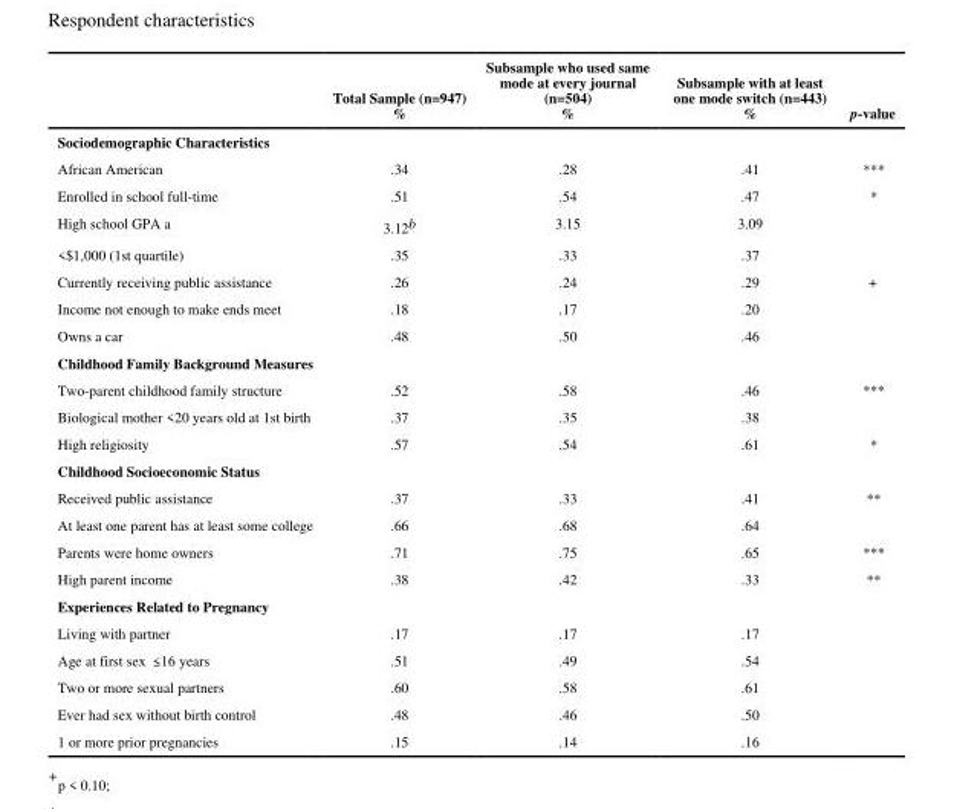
<table><thead><tr><td></td><td>Total Sample (n=947) %</td><td>Subsample who used same mode at every journal (n=504) %</td><td>Subsample with at least one mode switch (n=443) %</td><td>p-value</td></tr></thead><tbody><tr><td colspan="5">Sociodemographic Characteristics</td></tr><tr><td>African American</td><td>.34</td><td>.28</td><td>.41</td><td>***</td></tr><tr><td>Enrolled in school full-time</td><td>.51</td><td>.54</td><td>.47</td><td>*</td></tr><tr><td>High school GPA a</td><td>3.12<sup>b</sup></td><td>3.15</td><td>3.09</td><td></td></tr><tr><td>&lt;$1,000 (1st quartile)</td><td>.35</td><td>.33</td><td>.37</td><td></td></tr><tr><td>Currently receiving public assistance</td><td>.26</td><td>.24</td><td>.29</td><td>+</td></tr><tr><td>Income not enough to make ends meet</td><td>.18</td><td>.17</td><td>.20</td><td></td></tr><tr><td>Owns a car</td><td>.48</td><td>.50</td><td>.46</td><td></td></tr><tr><td colspan="5">Childhood Family Background Measures</td></tr><tr><td>Two-parent childhood family structure</td><td>.52</td><td>.58</td><td>.46</td><td>***</td></tr><tr><td>Biological mother &lt;20 years old at 1st birth</td><td>.37</td><td>.35</td><td>.38</td><td></td></tr><tr><td>High religiosity</td><td>.57</td><td>.54</td><td>.61</td><td>*</td></tr><tr><td colspan="5">Childhood Socioeconomic Status</td></tr><tr><td>Received public assistance</td><td>.37</td><td>.33</td><td>.41</td><td>**</td></tr><tr><td>At least one parent has at least some college</td><td>.66</td><td>.68</td><td>.64</td><td></td></tr><tr><td>Parents were home owners</td><td>.71</td><td>.75</td><td>.65</td><td>***</td></tr><tr><td>High parent income</td><td>.38</td><td>.42</td><td>.33</td><td>**</td></tr><tr><td colspan="5">Experiences Related to Pregnancy</td></tr><tr><td>Living with partner</td><td>.17</td><td>.17</td><td>.17</td><td></td></tr><tr><td>Age at first sex ≤ 16 years</td><td>.51</td><td>.49</td><td>.54</td><td></td></tr><tr><td>Two or more sexual partners</td><td>.60</td><td>.58</td><td>.61</td><td></td></tr><tr><td>Ever had sex without birth control</td><td>.48</td><td>.46</td><td>.50</td><td></td></tr><tr><td>1 or more prior pregnancies</td><td>.15</td><td>.14</td><td>.16</td><td></td></tr></tbody></table>